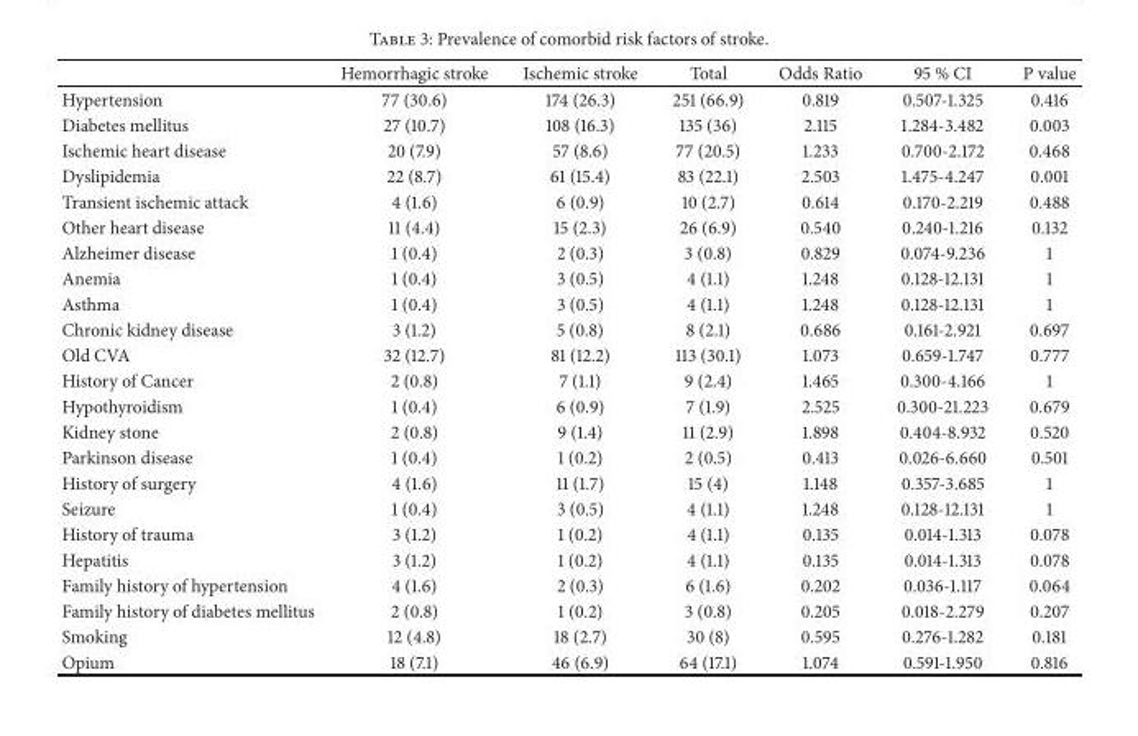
<table><thead><tr><td></td><td>Hemorrhagic stroke</td><td>Ischemic stroke</td><td>Total</td><td>Odds Ratio</td><td>95 % CI</td><td>P value</td></tr></thead><tbody><tr><td>Hypertension</td><td>77 (30.6)</td><td>174 (26.3)</td><td>251 (66.9)</td><td>0.819</td><td>0.507-1.325</td><td>0.416</td></tr><tr><td>Diabetes mellitus</td><td>27 (10.7)</td><td>108 (16.3)</td><td>135 (36)</td><td>2.115</td><td>1.284-3.482</td><td>0.003</td></tr><tr><td>Ischemic heart disease</td><td>20 (7.9)</td><td>57 (8.6)</td><td>77 (20.5)</td><td>1.233</td><td>0.700-2.172</td><td>0.468</td></tr><tr><td>Dyslipidemia</td><td>22 (8.7)</td><td>61 (15.4)</td><td>83 (22.1)</td><td>2.503</td><td>1.475-4.247</td><td>0.001</td></tr><tr><td>Transient ischemic attack</td><td>4 (1.6)</td><td>6 (0.9)</td><td>10 (2.7)</td><td>0.614</td><td>0.170-2.219</td><td>0.488</td></tr><tr><td>Other heart disease</td><td>11 (4.4)</td><td>15 (2.3)</td><td>26 (6.9)</td><td>0.540</td><td>0.240-1.216</td><td>0.132</td></tr><tr><td>Alzheimer disease</td><td>1 (0.4)</td><td>2 (0.3)</td><td>3 (0.8)</td><td>0.829</td><td>0.074-9.236</td><td>1</td></tr><tr><td>Anemia</td><td>1 (0.4)</td><td>3 (0.5)</td><td>4 (1.1)</td><td>1.248</td><td>0.128-12.131</td><td>1</td></tr><tr><td>Asthma</td><td>1 (0.4)</td><td>3 (0.5)</td><td>4 (1.1)</td><td>1.248</td><td>0.128-12.131</td><td>1</td></tr><tr><td>Chronic kidney disease</td><td>3 (1.2)</td><td>5 (0.8)</td><td>8 (2.1)</td><td>0.686</td><td>0.161-2.921</td><td>0.697</td></tr><tr><td>Old CVA</td><td>32 (12.7)</td><td>81 (12.2)</td><td>113 (30.1)</td><td>1.073</td><td>0.659-1.747</td><td>0.777</td></tr><tr><td>History of Cancer</td><td>2 (0.8)</td><td>7 (1.1)</td><td>9 (2.4)</td><td>1.465</td><td>0.300-4.166</td><td>1</td></tr><tr><td>Hypothyroidism</td><td>1 (0.4)</td><td>6 (0.9)</td><td>7 (1.9)</td><td>2.525</td><td>0.300-21.223</td><td>0.679</td></tr><tr><td>Kidney stone</td><td>2 (0.8)</td><td>9 (1.4)</td><td>11 (2.9)</td><td>1.898</td><td>0.404-8.932</td><td>0.520</td></tr><tr><td>Parkinson disease</td><td>1 (0.4)</td><td>1 (0.2)</td><td>2 (0.5)</td><td>0.413</td><td>0.026-6.660</td><td>0.501</td></tr><tr><td>History of surgery</td><td>4 (1.6)</td><td>11 (1.7)</td><td>15 (4)</td><td>1.148</td><td>0.357-3.685</td><td>1</td></tr><tr><td>Seizure</td><td>1 (0.4)</td><td>3 (0.5)</td><td>4 (1.1)</td><td>1.248</td><td>0.128-12.131</td><td>1</td></tr><tr><td>History of trauma</td><td>3 (1.2)</td><td>1 (0.2)</td><td>4 (1.1)</td><td>0.135</td><td>0.014-1.313</td><td>0.078</td></tr><tr><td>Hepatitis</td><td>3 (1.2)</td><td>1 (0.2)</td><td>4 (1.1)</td><td>0.135</td><td>0.014-1.313</td><td>0.078</td></tr><tr><td>Family history of hypertension</td><td>4 (1.6)</td><td>2 (0.3)</td><td>6 (1.6)</td><td>0.202</td><td>0.036-1.117</td><td>0.064</td></tr><tr><td>Family history of diabetes mellitus</td><td>2 (0.8)</td><td>1 (0.2)</td><td>3 (0.8)</td><td>0.205</td><td>0.018-2.279</td><td>0.207</td></tr><tr><td>Smoking</td><td>12 (4.8)</td><td>18 (2.7)</td><td>30 (8)</td><td>0.595</td><td>0.276-1.282</td><td>0.181</td></tr><tr><td>Opium</td><td>18 (7.1)</td><td>46 (6.9)</td><td>64 (17.1)</td><td>1.074</td><td>0.591-1.950</td><td>0.816</td></tr></tbody></table>